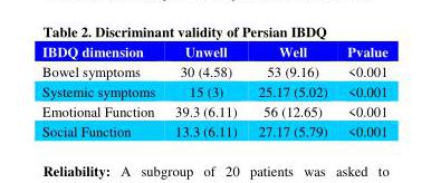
<table><thead><tr><td>IBDQ dimension</td><td>Unwell</td><td>Well</td><td>Pvalue</td></tr></thead><tbody><tr><td>Bowel symptoms</td><td>30 (4.58)</td><td>53 (9.16)</td><td>&lt;0.001</td></tr><tr><td>Systemic symptoms</td><td>15 (3)</td><td>25.17 (5.02)</td><td>&lt;0.001</td></tr><tr><td>Emotional Function</td><td>39.3 (6.11)</td><td>56 (12.65)</td><td>&lt;0.001</td></tr><tr><td>Social Function</td><td>13.3 (6.11)</td><td>27.17 (5.79)</td><td>&lt;0.001</td></tr></tbody></table>